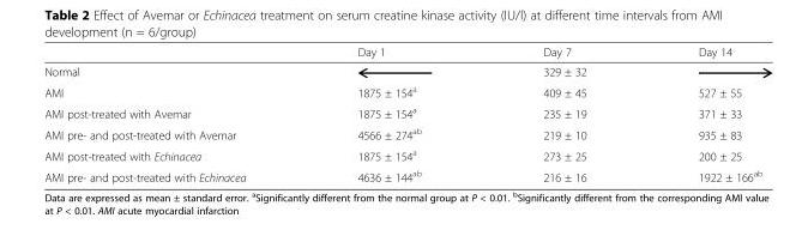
<table><thead><tr><td></td><td>Day 1</td><td>Day 7</td><td>Day 14</td></tr></thead><tbody><tr><td>Normal</td><td></td><td>329 ± 32</td><td></td></tr><tr><td>AMI</td><td>1875 ± 154<sup>a</sup></td><td>409 ± 45</td><td>527 ± 55</td></tr><tr><td>AMI post-treated with Avemar</td><td>1875 ± 154<sup>a</sup></td><td>235 ± 19</td><td>371 ± 33</td></tr><tr><td>AMI pre- and post-treated with Avemar</td><td>4566 ± 274<sup>ab</sup></td><td>219 ± 10</td><td>935 ± 83</td></tr><tr><td>AMI post-treated with Echinacea</td><td>1875 ± 154<sup>a</sup></td><td>273 ± 25</td><td>200 ± 25</td></tr><tr><td>AMI pre- and post-treated with Echinacea</td><td>4636 ± 144<sup>ab</sup></td><td>216 ± 16</td><td>1922 ± 166<sup>ab</sup></td></tr></tbody></table>